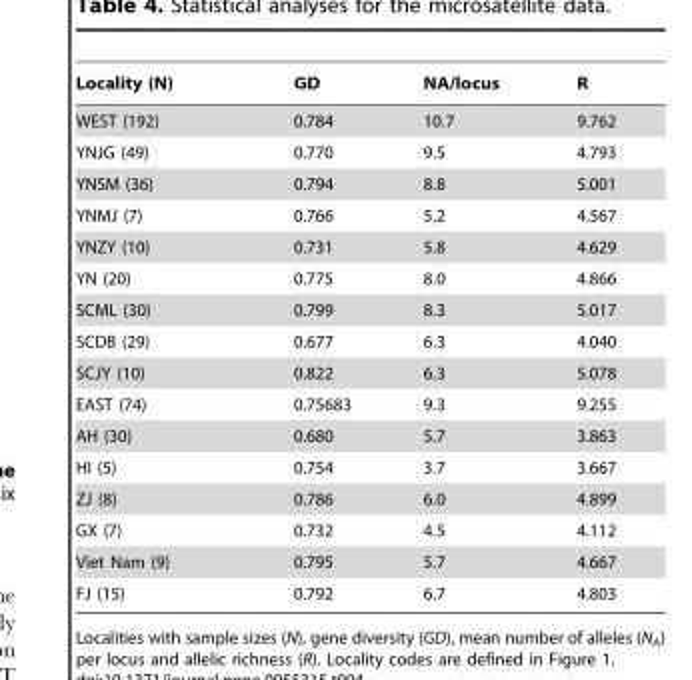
<table><thead><tr><td>Locality (N)</td><td>GD</td><td>NA/locus</td><td>R</td></tr></thead><tbody><tr><td>WEST (192)</td><td>0.784</td><td>10.7</td><td>9.762</td></tr><tr><td>YNJG (49)</td><td>0.770</td><td>9.5</td><td>4.793</td></tr><tr><td>YNSM (36)</td><td>0.794</td><td>8.8</td><td>5.001</td></tr><tr><td>YNMJ (7)</td><td>0.766</td><td>5.2</td><td>4.567</td></tr><tr><td>YNZY (10)</td><td>0.731</td><td>5.8</td><td>4.629</td></tr><tr><td>YN (20)</td><td>0.775</td><td>8.0</td><td>4.866</td></tr><tr><td>SCML (30)</td><td>0.799</td><td>8.3</td><td>5.017</td></tr><tr><td>SCDB (29)</td><td>0.677</td><td>6.3</td><td>4.040</td></tr><tr><td>SCJY (10)</td><td>0.822</td><td>6.3</td><td>5.078</td></tr><tr><td>EAST (74)</td><td>0.75683</td><td>9.3</td><td>9.255</td></tr><tr><td>AH (30)</td><td>0.680</td><td>5.7</td><td>3.863</td></tr><tr><td>HI (5)</td><td>0.754</td><td>3.7</td><td>3.667</td></tr><tr><td>ZJ (8)</td><td>0.786</td><td>6.0</td><td>4.899</td></tr><tr><td>GX (7)</td><td>0.732</td><td>4.5</td><td>4.112</td></tr><tr><td>Viet Nam (9)</td><td>0.795</td><td>5.7</td><td>4.667</td></tr><tr><td>FJ (15)</td><td>0.792</td><td>6.7</td><td>4.803</td></tr></tbody></table>